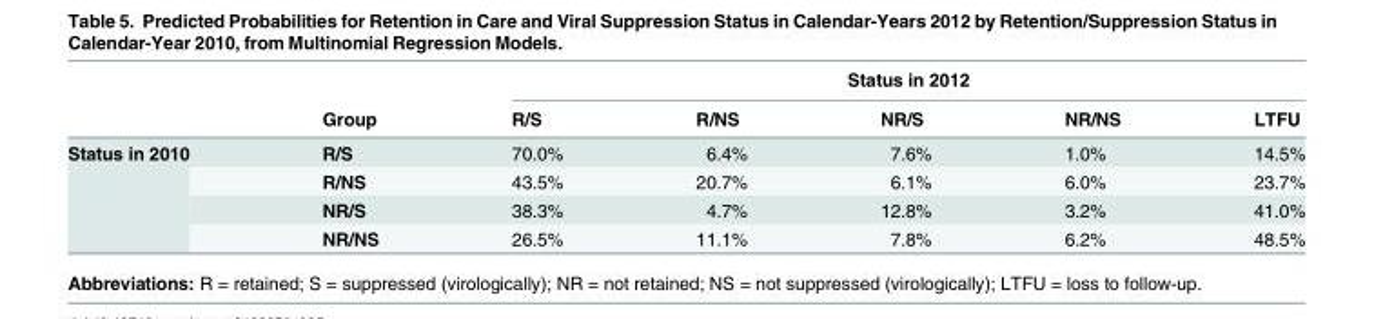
<table><thead><tr><td rowspan="2"></td><td rowspan="2">Group</td><td colspan="5">Status in 2012</td></tr><tr><td>R/S</td><td>R/NS</td><td>NR/S</td><td>NR/NS</td><td>LTFU</td></tr></thead><tbody><tr><td rowspan="4">Status in 2010</td><td>R/S</td><td>70.0%</td><td>6.4%</td><td>7.6%</td><td>1.0%</td><td>14.5%</td></tr><tr><td>R/NS</td><td>43.5%</td><td>20.7%</td><td>6.1%</td><td>6.0%</td><td>23.7%</td></tr><tr><td>NR/S</td><td>38.3%</td><td>4.7%</td><td>12.8%</td><td>3.2%</td><td>41.0%</td></tr><tr><td>NR/NS</td><td>26.5%</td><td>11.1%</td><td>7.8%</td><td>6.2%</td><td>48.5%</td></tr></tbody></table>